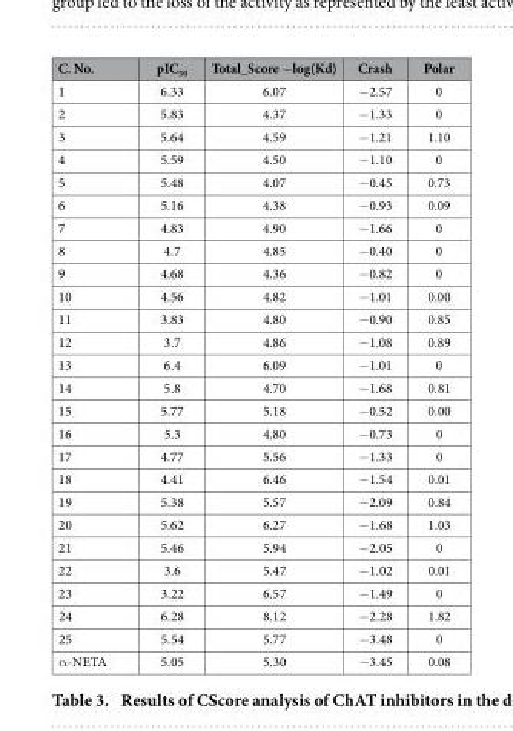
<table><thead><tr><td>C. No.</td><td>pIC<sub>50</sub></td><td>Total_Score −log(Kd)</td><td>Crash</td><td>Polar</td></tr></thead><tbody><tr><td>1</td><td>6.33</td><td>6.07</td><td>− 2.57</td><td>0</td></tr><tr><td>2</td><td>5.83</td><td>4.37</td><td>− 1.33</td><td>0</td></tr><tr><td>3</td><td>5.64</td><td>4.59</td><td>− 1.21</td><td>1.10</td></tr><tr><td>4</td><td>5.59</td><td>4.50</td><td>− 1.10</td><td>0</td></tr><tr><td>5</td><td>5.48</td><td>4.07</td><td>− 0.45</td><td>0.73</td></tr><tr><td>6</td><td>5.16</td><td>4.38</td><td>− 0.93</td><td>0.09</td></tr><tr><td>7</td><td>4.83</td><td>4.90</td><td>− 1.66</td><td>0</td></tr><tr><td>8</td><td>4.7</td><td>4.85</td><td>− 0.40</td><td>0</td></tr><tr><td>9</td><td>4.68</td><td>4.36</td><td>− 0.82</td><td>0</td></tr><tr><td>10</td><td>4.56</td><td>4.82</td><td>− 1.01</td><td>0.00</td></tr><tr><td>11</td><td>3.83</td><td>4.80</td><td>− 0.90</td><td>0.85</td></tr><tr><td>12</td><td>3.7</td><td>4.86</td><td>− 1.08</td><td>0.89</td></tr><tr><td>13</td><td>6.4</td><td>6.09</td><td>− 1.01</td><td>0</td></tr><tr><td>14</td><td>5.8</td><td>4.70</td><td>− 1.68</td><td>0.81</td></tr><tr><td>15</td><td>5.77</td><td>5.18</td><td>− 0.52</td><td>0.00</td></tr><tr><td>16</td><td>5.3</td><td>4.80</td><td>− 0.73</td><td>0</td></tr><tr><td>17</td><td>4.77</td><td>5.56</td><td>− 1.33</td><td>0</td></tr><tr><td>18</td><td>4.41</td><td>6.46</td><td>− 1.54</td><td>0.01</td></tr><tr><td>19</td><td>5.38</td><td>5.57</td><td>− 2.09</td><td>0.84</td></tr><tr><td>20</td><td>5.62</td><td>6.27</td><td>− 1.68</td><td>1.03</td></tr><tr><td>21</td><td>5.46</td><td>5.94</td><td>− 2.05</td><td>0</td></tr><tr><td>22</td><td>3.6</td><td>5.47</td><td>− 1.02</td><td>0.01</td></tr><tr><td>23</td><td>3.22</td><td>6.57</td><td>− 1.49</td><td>0</td></tr><tr><td>24</td><td>6.28</td><td>8.12</td><td>− 2.28</td><td>1.82</td></tr><tr><td>25</td><td>5.54</td><td>5.77</td><td>− 3.48</td><td>0</td></tr><tr><td>α -NETA</td><td>5.05</td><td>5.30</td><td>− 3.45</td><td>0.08</td></tr></tbody></table>